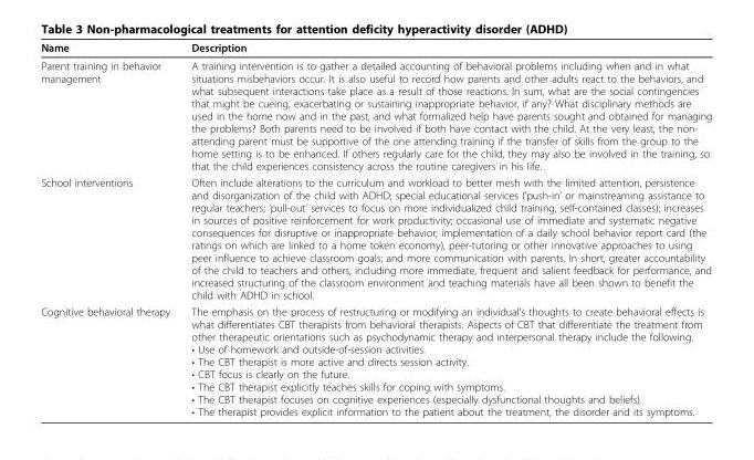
<table><thead><tr><td>Name</td><td>Description</td></tr></thead><tbody><tr><td>Parent training in behavior management</td><td>A training intervention is to gather a detailed accounting of behavioral problems including when and in what situations misbehaviors occur. It is also useful to record how parents and other adults react to the behaviors, and what subsequent interactions take place as a result of those reactions. In sum, what are the social contingencies that might be cueing, exacerbating or sustaining inappropriate behavior, if any? What disciplinary methods are used in the home now and in the past, and what formalized help have parents sought and obtained for managing the problems? Both parents need to be involved if both have contact with the child. At the very least, the non- attending parent must be supportive of the one attending training if the transfer of skills from the group to the home setting is to be enhanced. If others regularly care for the child, they may also be involved in the training, so that the child experiences consistency across the routine caregivers in his life.</td></tr><tr><td>School interventions</td><td>Often include alterations to the curriculum and workload to better mesh with the limited attention, persistence and disorganization of the child with ADHD; special educational services (’push-in’ or mainstreaming assistance to regular teachers; ‘pull-out’ services to focus on more individualized child training, self-contained classes); increases in sources of positive reinforcement for work productivity; occasional use of immediate and systematic negative consequences for disruptive or inappropriate behavior; implementation of a daily school behavior report card (the ratings on which are linked to a home token economy), peer-tutoring or other innovative approaches to using peer influence to achieve classroom goals; and more communication with parents. In short, greater accountability of the child to teachers and others, including more immediate, frequent and salient feedback for performance, and increased structuring of the classroom environment and teaching materials have all been shown to benefit the child with ADHD in school.</td></tr><tr><td>Cognitive behavioral therapy</td><td>The emphasis on the process of restructuring or modifying an individual’s thoughts to create behavioral effects is what differentiates CBT therapists from behavioral therapists. Aspects of CBT that differentiate the treatment from other therapeutic orientations such as psychodynamic therapy and interpersonal therapy include the following. • Use of homework and outside-of-session activities. • The CBT therapist is more active and directs session activity. • CBT focus is clearly on the future. • The CBT therapist explicitly teaches skills for coping with symptoms. • The CBT therapist focuses on cognitive experiences (especially dysfunctional thoughts and beliefs). • The therapist provides explicit information to the patient about the treatment, the disorder and its symptoms.</td></tr></tbody></table>